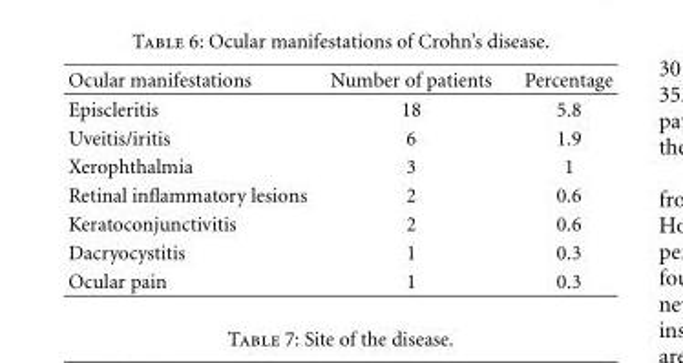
<table><thead><tr><td>Ocular manifestations</td><td>Number of patients</td><td>Percentage</td></tr></thead><tbody><tr><td>Episcleritis</td><td>18</td><td>5.8</td></tr><tr><td>Uveitis/iritis</td><td>6</td><td>1.9</td></tr><tr><td>Xerophthalmia</td><td>3</td><td>1</td></tr><tr><td>Retinal inflammatory lesions</td><td>2</td><td>0.6</td></tr><tr><td>Keratoconjunctivitis</td><td>2</td><td>0.6</td></tr><tr><td>Dacryocystitis</td><td>1</td><td>0.3</td></tr><tr><td>Ocular pain</td><td>1</td><td>0.3</td></tr></tbody></table>